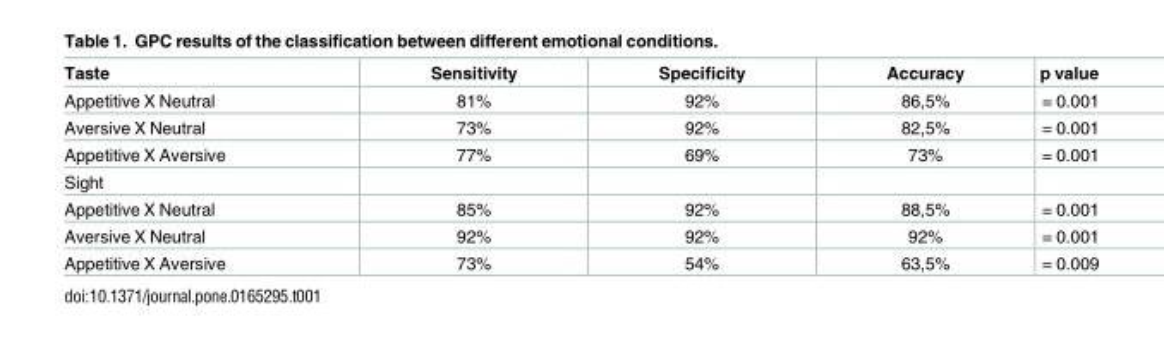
<table><thead><tr><td>Taste</td><td>Sensitivity</td><td>Specificity</td><td>Accuracy</td><td>p value</td></tr></thead><tbody><tr><td>Appetitive X Neutral</td><td>81%</td><td>92%</td><td>86,5%</td><td>= 0.001</td></tr><tr><td>Aversive X Neutral</td><td>73%</td><td>92%</td><td>82,5%</td><td>= 0.001</td></tr><tr><td>Appetitive X Aversive</td><td>77%</td><td>69%</td><td>73%</td><td>= 0.001</td></tr><tr><td colspan="5">Sight</td></tr><tr><td>Appetitive X Neutral</td><td>85%</td><td>92%</td><td>88,5%</td><td>= 0.001</td></tr><tr><td>Aversive X Neutral</td><td>92%</td><td>92%</td><td>92%</td><td>= 0.001</td></tr><tr><td>Appetitive X Aversive</td><td>73%</td><td>54%</td><td>63,5%</td><td>= 0.009</td></tr></tbody></table>